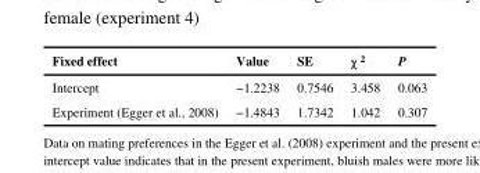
<table><thead><tr><td>Fixed effect</td><td>Value</td><td>SE</td><td>χ <sup>2</sup></td><td>P</td></tr></thead><tbody><tr><td>Intercept</td><td>−1.2238</td><td>0.7546</td><td>3.458</td><td>0.063</td></tr><tr><td>Experiment (Egger et al., 2008)</td><td>−1.4843</td><td>1.7342</td><td>1.042</td><td>0.307</td></tr></tbody></table>